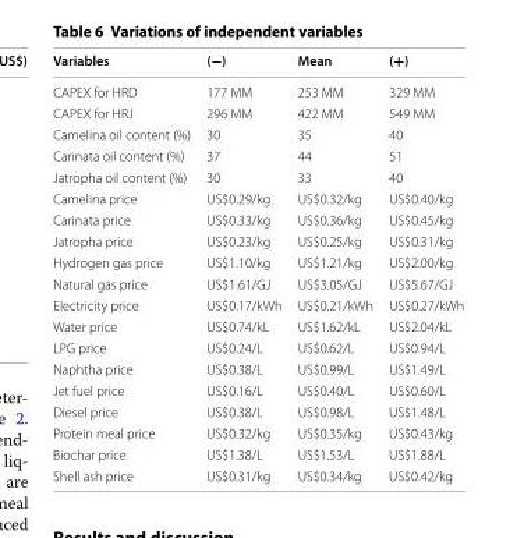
<table><thead><tr><td>Variables</td><td>(−)</td><td>Mean</td><td>(+)</td></tr></thead><tbody><tr><td>CAPEX for HRD</td><td>177 MM</td><td>253 MM</td><td>329 MM</td></tr><tr><td>CAPEX for HRJ</td><td>296 MM</td><td>422 MM</td><td>549 MM</td></tr><tr><td>Camelina oil content (%)</td><td>30</td><td>35</td><td>40</td></tr><tr><td>Carinata oil content (%)</td><td>37</td><td>44</td><td>51</td></tr><tr><td>Jatropha oil content (%)</td><td>30</td><td>33</td><td>40</td></tr><tr><td>Camelina price</td><td>US$0.29/kg</td><td>US$0.32/kg</td><td>US$0.40/kg</td></tr><tr><td>Carinata price</td><td>US$0.33/kg</td><td>US$0.36/kg</td><td>US$0.45/kg</td></tr><tr><td>Jatropha price</td><td>US$0.23/kg</td><td>US$0.25/kg</td><td>US$0.31/kg</td></tr><tr><td>Hydrogen gas price</td><td>US$1.10/kg</td><td>US$1.21/kg</td><td>US$2.00/kg</td></tr><tr><td>Natural gas price</td><td>US$1.61/GJ</td><td>US$3.05/GJ</td><td>US$5.67/GJ</td></tr><tr><td>Electricity price</td><td>US$0.17/kWh</td><td>US$0.21/kWh</td><td>US$0.27/kWh</td></tr><tr><td>Water price</td><td>US$0.74/kL</td><td>US$1.62/kL</td><td>US$2.04/kL</td></tr><tr><td>LPG price</td><td>US$0.24/L</td><td>US$0.62/L</td><td>US$0.94/L</td></tr><tr><td>Naphtha price</td><td>US$0.38/L</td><td>US$0.99/L</td><td>US$1.49/L</td></tr><tr><td>Jet fuel price</td><td>US$0.16/L</td><td>US$0.40/L</td><td>US$0.60/L</td></tr><tr><td>Diesel price</td><td>US$0.38/L</td><td>US$0.98/L</td><td>US$1.48/L</td></tr><tr><td>Protein meal price</td><td>US$0.32/kg</td><td>US$0.35/kg</td><td>US$0.43/kg</td></tr><tr><td>Biochar price</td><td>US$1.38/L</td><td>US$1.53/L</td><td>US$1.88/L</td></tr><tr><td>Shell ash price</td><td>US$0.31/kg</td><td>US$0.34/kg</td><td>US$0.42/kg</td></tr></tbody></table>